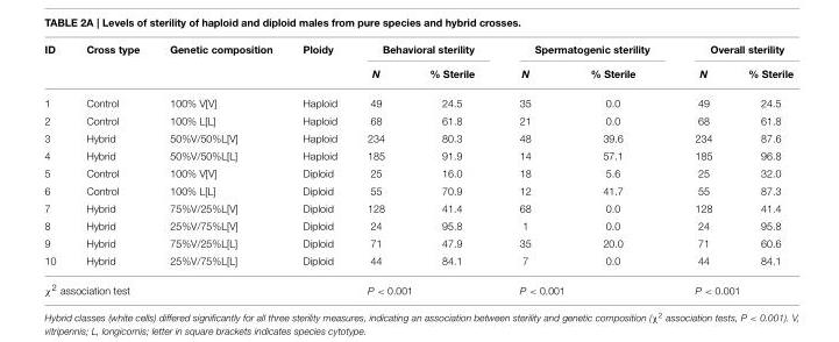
<table><thead><tr><td rowspan="2">ID</td><td rowspan="2">Cross type</td><td rowspan="2">Genetic composition</td><td rowspan="2">Ploidy</td><td colspan="2">Behavioral sterility</td><td colspan="2">Spermatogenic sterility</td><td colspan="2">Overall sterility</td></tr><tr><td>N</td><td>% Sterile</td><td>N</td><td>% Sterile</td><td>N</td><td>% Sterile</td></tr></thead><tbody><tr><td>1</td><td>Control</td><td>100% V[V]</td><td>Haploid</td><td>49</td><td>24.5</td><td>35</td><td>0.0</td><td>49</td><td>24.5</td></tr><tr><td>2</td><td>Control</td><td>100% L[L]</td><td>Haploid</td><td>68</td><td>61.8</td><td>21</td><td>0.0</td><td>68</td><td>61.8</td></tr><tr><td>3</td><td>Hybrid</td><td>50%V/50%L[V]</td><td>Haploid</td><td>234</td><td>80.3</td><td>48</td><td>39.6</td><td>234</td><td>87.6</td></tr><tr><td>4</td><td>Hybrid</td><td>50%V/50%L[L]</td><td>Haploid</td><td>185</td><td>91.9</td><td>14</td><td>57.1</td><td>185</td><td>96.8</td></tr><tr><td>5</td><td>Control</td><td>100% V[V]</td><td>Diploid</td><td>25</td><td>16.0</td><td>18</td><td>5.6</td><td>25</td><td>32.0</td></tr><tr><td>6</td><td>Control</td><td>100% L[L]</td><td>Diploid</td><td>55</td><td>70.9</td><td>12</td><td>41.7</td><td>55</td><td>87.3</td></tr><tr><td>7</td><td>Hybrid</td><td>75%V/25%L[V]</td><td>Diploid</td><td>128</td><td>41.4</td><td>68</td><td>0.0</td><td>128</td><td>41.4</td></tr><tr><td>8</td><td>Hybrid</td><td>25%V/75%L[V]</td><td>Diploid</td><td>24</td><td>95.8</td><td>1</td><td>0.0</td><td>24</td><td>95.8</td></tr><tr><td>9</td><td>Hybrid</td><td>75%V/25%L[L]</td><td>Diploid</td><td>71</td><td>47.9</td><td>35</td><td>20.0</td><td>71</td><td>60.6</td></tr><tr><td>10</td><td>Hybrid</td><td>25%V/75%L[L]</td><td>Diploid</td><td>44</td><td>84.1</td><td>7</td><td>0.0</td><td>44</td><td>84.1</td></tr><tr><td colspan="2">χ<sup>2</sup> association test</td><td></td><td></td><td>P &lt; 0.001</td><td></td><td>P &lt; 0.001</td><td></td><td>P &lt; 0.001</td><td></td></tr></tbody></table>